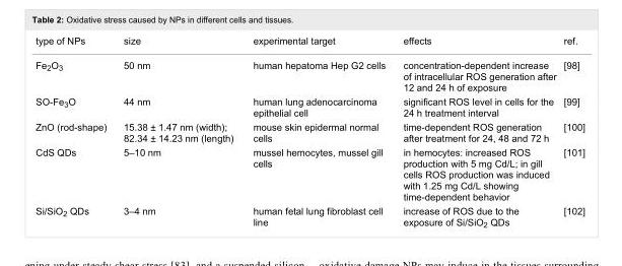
<table><tbody><tr><td>type of NPs</td><td>size</td><td>experimental target</td><td>effects</td><td>ref.</td></tr><tr><td>Fe<sub>2</sub>O<sub>3</sub></td><td>50 nm</td><td>human hepatoma Hep G2 cells</td><td>concentration-dependent increase of intracellular ROS generation after 12 and 24 h of exposure</td><td>[98]</td></tr><tr><td>SO-Fe<sub>3</sub>O</td><td>44 nm</td><td>human lung adenocarcinoma epithelial cell</td><td>significant ROS level in cells for the 24 h treatment interval</td><td>[99]</td></tr><tr><td>ZnO (rod-shape)</td><td>15.38 ± 1.47 nm (width); 82.34 ± 14.23 nm (length)</td><td>mouse skin epidermal normal cells</td><td>time-dependent ROS generation after treatment for 24, 48 and 72 h</td><td>[100]</td></tr><tr><td>CdS QDs</td><td>5–10 nm</td><td>mussel hemocytes, mussel gill cells</td><td>in hemocytes: increased ROS production with 5 mg Cd/L; in gill cells ROS production was induced with 1.25 mg Cd/L showing time-dependent behavior</td><td>[101]</td></tr><tr><td>Si/SiO<sub>2</sub> QDs</td><td>3–4 nm</td><td>human fetal lung fibroblast cell line</td><td>increase of ROS due to the exposure of Si/SiO<sub>2</sub> QDs</td><td>[102]</td></tr></tbody></table>